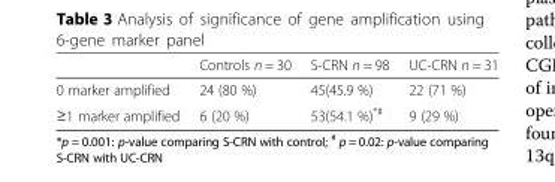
<table><thead><tr><td></td><td>Controls n = 30</td><td>S-CRN n = 98</td><td>UC-CRN n = 31</td></tr></thead><tbody><tr><td>0 marker amplified</td><td>24 (80 %)</td><td>45(45.9 %)</td><td>22 (71 %)</td></tr><tr><td>≥1 marker amplified</td><td>6 (20 %)</td><td>53(54.1 %)<sup>*#</sup></td><td>9 (29 %)</td></tr></tbody></table>